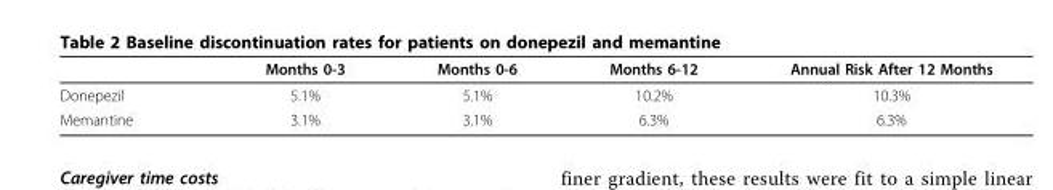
<table><thead><tr><td></td><td>Months 0-3</td><td>Months 0-6</td><td>Months 6-12</td><td>Annual Risk After 12 Months</td></tr></thead><tbody><tr><td>Donepezil</td><td>5.1%</td><td>5.1%</td><td>10.2%</td><td>10.3%</td></tr><tr><td>Memantine</td><td>3.1%</td><td>3.1%</td><td>6.3%</td><td>6.3%</td></tr></tbody></table>